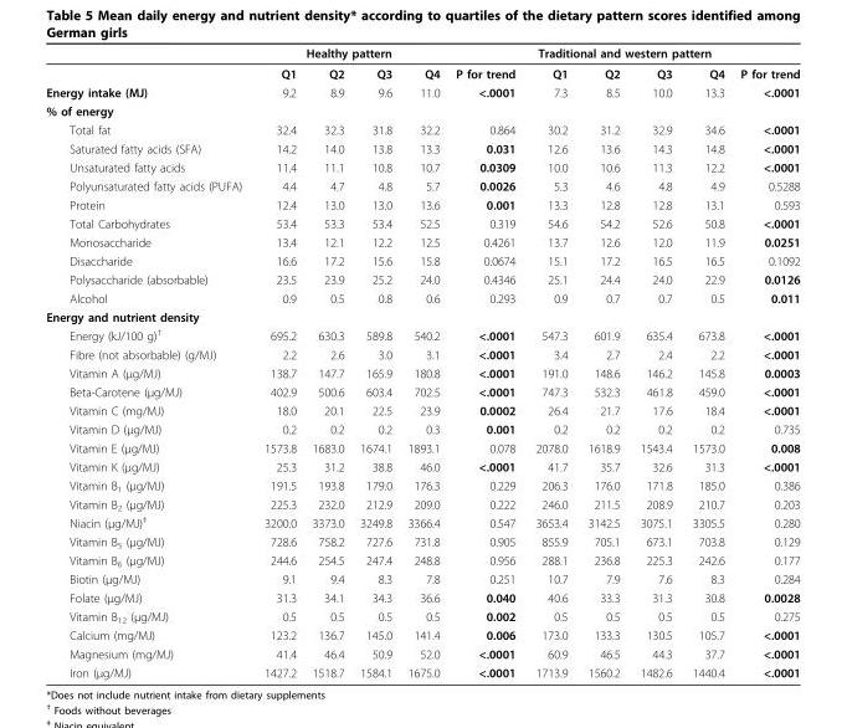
<table><thead><tr><td rowspan="2"></td><td colspan="4">Healthy pattern</td><td rowspan="2">P for trend</td><td colspan="4">Traditional and western pattern</td><td rowspan="2">P for trend</td></tr><tr><td>Q1</td><td>Q2</td><td>Q3</td><td>Q4</td><td>Q1</td><td>Q2</td><td>Q3</td><td>Q4</td></tr></thead><tbody><tr><td>Energy intake (MJ)</td><td>9.2</td><td>8.9</td><td>9.6</td><td>11.0</td><td>&lt;.0001</td><td>7.3</td><td>8.5</td><td>10.0</td><td>13.3</td><td>&lt;.0001</td></tr><tr><td colspan="11">% of energy</td></tr><tr><td>Total fat</td><td>32.4</td><td>32.3</td><td>31.8</td><td>32.2</td><td>0.864</td><td>30.2</td><td>31.2</td><td>32.9</td><td>34.6</td><td>&lt;.0001</td></tr><tr><td>Saturated fatty acids (SFA)</td><td>14.2</td><td>14.0</td><td>13.8</td><td>13.3</td><td>0.031</td><td>12.6</td><td>13.6</td><td>14.3</td><td>14.8</td><td>&lt;.0001</td></tr><tr><td>Unsaturated fatty acids</td><td>11.4</td><td>11.1</td><td>10.8</td><td>10.7</td><td>0.0309</td><td>10.0</td><td>10.6</td><td>11.3</td><td>12.2</td><td>&lt;.0001</td></tr><tr><td>Polyunsaturated fatty acids (PUFA)</td><td>4.4</td><td>4.7</td><td>4.8</td><td>5.7</td><td>0.0026</td><td>5.3</td><td>4.6</td><td>4.8</td><td>4.9</td><td>0.5288</td></tr><tr><td>Protein</td><td>12.4</td><td>13.0</td><td>13.0</td><td>13.6</td><td>0.001</td><td>13.3</td><td>12.8</td><td>12.8</td><td>13.1</td><td>0.593</td></tr><tr><td>Total Carbohydrates</td><td>53.4</td><td>53.3</td><td>53.4</td><td>52.5</td><td>0.319</td><td>54.6</td><td>54.2</td><td>52.6</td><td>50.8</td><td>&lt;.0001</td></tr><tr><td>Monosaccharide</td><td>13.4</td><td>12.1</td><td>12.2</td><td>12.5</td><td>0.4261</td><td>13.7</td><td>12.6</td><td>12.0</td><td>11.9</td><td>0.0251</td></tr><tr><td>Disaccharide</td><td>16.6</td><td>17.2</td><td>15.6</td><td>15.8</td><td>0.0674</td><td>15.1</td><td>17.2</td><td>16.5</td><td>16.5</td><td>0.1092</td></tr><tr><td>Polysaccharide (absorbable)</td><td>23.5</td><td>23.9</td><td>25.2</td><td>24.0</td><td>0.4346</td><td>25.1</td><td>24.4</td><td>24.0</td><td>22.9</td><td>0.0126</td></tr><tr><td>Alcohol</td><td>0.9</td><td>0.5</td><td>0.8</td><td>0.6</td><td>0.293</td><td>0.9</td><td>0.7</td><td>0.7</td><td>0.5</td><td>0.011</td></tr><tr><td colspan="11">Energy and nutrient density</td></tr><tr><td>Energy (kJ/100 g)<sup>†</sup></td><td>695.2</td><td>630.3</td><td>589.8</td><td>540.2</td><td>&lt;.0001</td><td>547.3</td><td>601.9</td><td>635.4</td><td>673.8</td><td>&lt;.0001</td></tr><tr><td>Fibre (not absorbable) (g/MJ)</td><td>2.2</td><td>2.6</td><td>3.0</td><td>3.1</td><td>&lt;.0001</td><td>3.4</td><td>2.7</td><td>2.4</td><td>2.2</td><td>&lt;.0001</td></tr><tr><td>Vitamin A (μg/MJ)</td><td>138.7</td><td>147.7</td><td>165.9</td><td>180.8</td><td>&lt;.0001</td><td>191.0</td><td>148.6</td><td>146.2</td><td>145.8</td><td>0.0003</td></tr><tr><td>Beta-Carotene (μg/MJ)</td><td>402.9</td><td>500.6</td><td>603.4</td><td>702.5</td><td>&lt;.0001</td><td>747.3</td><td>532.3</td><td>461.8</td><td>459.0</td><td>&lt;.0001</td></tr><tr><td>Vitamin C (mg/MJ)</td><td>18.0</td><td>20.1</td><td>22.5</td><td>23.9</td><td>0.0002</td><td>26.4</td><td>21.7</td><td>17.6</td><td>18.4</td><td>&lt;.0001</td></tr><tr><td>Vitamin D (μg/MJ)</td><td>0.2</td><td>0.2</td><td>0.2</td><td>0.3</td><td>0.001</td><td>0.2</td><td>0.2</td><td>0.2</td><td>0.2</td><td>0.735</td></tr><tr><td>Vitamin E (μg/MJ)</td><td>1573.8</td><td>1683.0</td><td>1674.1</td><td>1893.1</td><td>0.078</td><td>2078.0</td><td>1618.9</td><td>1543.4</td><td>1573.0</td><td>0.008</td></tr><tr><td>Vitamin K (μg/MJ)</td><td>25.3</td><td>31.2</td><td>38.8</td><td>46.0</td><td>&lt;.0001</td><td>41.7</td><td>35.7</td><td>32.6</td><td>31.3</td><td>&lt;.0001</td></tr><tr><td>Vitamin B<sub>1</sub> (μg/MJ)</td><td>191.5</td><td>193.8</td><td>179.0</td><td>176.3</td><td>0.229</td><td>206.3</td><td>176.0</td><td>171.8</td><td>185.0</td><td>0.386</td></tr><tr><td>Vitamin B<sub>2</sub> (μg/MJ)</td><td>225.3</td><td>232.0</td><td>212.9</td><td>209.0</td><td>0.222</td><td>246.0</td><td>211.5</td><td>208.9</td><td>210.7</td><td>0.203</td></tr><tr><td>Niacin (μg/MJ)<sup>‡</sup></td><td>3200.0</td><td>3373.0</td><td>3249.8</td><td>3366.4</td><td>0.547</td><td>3653.4</td><td>3142.5</td><td>3075.1</td><td>3305.5</td><td>0.280</td></tr><tr><td>Vitamin B<sub>5</sub> (μg/MJ)</td><td>728.6</td><td>758.2</td><td>727.6</td><td>731.8</td><td>0.905</td><td>855.9</td><td>705.1</td><td>673.1</td><td>703.8</td><td>0.129</td></tr><tr><td>Vitamin B<sub>6</sub> (μg/MJ)</td><td>244.6</td><td>254.5</td><td>247.4</td><td>248.8</td><td>0.956</td><td>288.1</td><td>236.8</td><td>225.3</td><td>242.6</td><td>0.177</td></tr><tr><td>Biotin (μg/MJ)</td><td>9.1</td><td>9.4</td><td>8.3</td><td>7.8</td><td>0.251</td><td>10.7</td><td>7.9</td><td>7.6</td><td>8.3</td><td>0.284</td></tr><tr><td>Folate (μg/MJ)</td><td>31.3</td><td>34.1</td><td>34.3</td><td>36.6</td><td>0.040</td><td>40.6</td><td>33.3</td><td>31.3</td><td>30.8</td><td>0.0028</td></tr><tr><td>Vitamin B<sub>12</sub> (μg/MJ)</td><td>0.5</td><td>0.5</td><td>0.5</td><td>0.5</td><td>0.002</td><td>0.5</td><td>0.5</td><td>0.5</td><td>0.5</td><td>0.275</td></tr><tr><td>Calcium (mg/MJ)</td><td>123.2</td><td>136.7</td><td>145.0</td><td>141.4</td><td>0.006</td><td>173.0</td><td>133.3</td><td>130.5</td><td>105.7</td><td>&lt;.0001</td></tr><tr><td>Magnesium (mg/MJ)</td><td>41.4</td><td>46.4</td><td>50.9</td><td>52.0</td><td>&lt;.0001</td><td>60.9</td><td>46.5</td><td>44.3</td><td>37.7</td><td>&lt;.0001</td></tr><tr><td>Iron (μg/MJ)</td><td>1427.2</td><td>1518.7</td><td>1584.1</td><td>1675.0</td><td>&lt;.0001</td><td>1713.9</td><td>1560.2</td><td>1482.6</td><td>1440.4</td><td>&lt;.0001</td></tr></tbody></table>